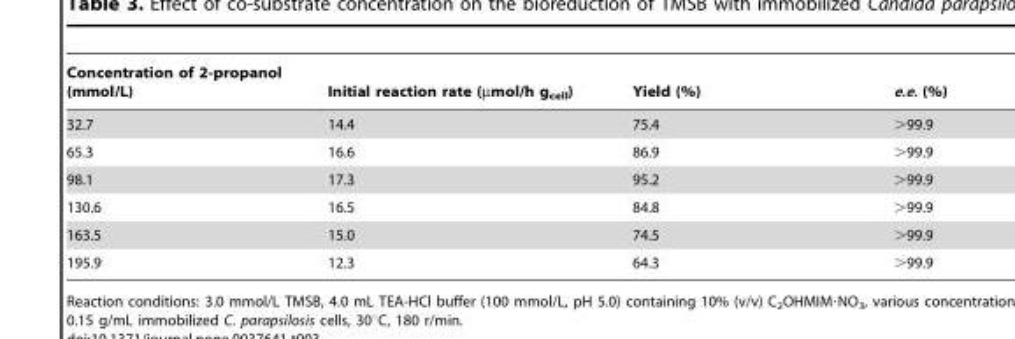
<table><thead><tr><td>Concentration of 2-propanol (mmol/L)</td><td>Initial reaction rate (µmol/h g<sub>cell</sub>)</td><td>Yield (%)</td><td>e.e. (%)</td></tr></thead><tbody><tr><td>32.7</td><td>14.4</td><td>75.4</td><td>&gt;99.9</td></tr><tr><td>65.3</td><td>16.6</td><td>86.9</td><td>&gt;99.9</td></tr><tr><td>98.1</td><td>17.3</td><td>95.2</td><td>&gt;99.9</td></tr><tr><td>130.6</td><td>16.5</td><td>84.8</td><td>&gt;99.9</td></tr><tr><td>163.5</td><td>15.0</td><td>74.5</td><td>&gt;99.9</td></tr><tr><td>195.9</td><td>12.3</td><td>64.3</td><td>&gt;99.9</td></tr></tbody></table>